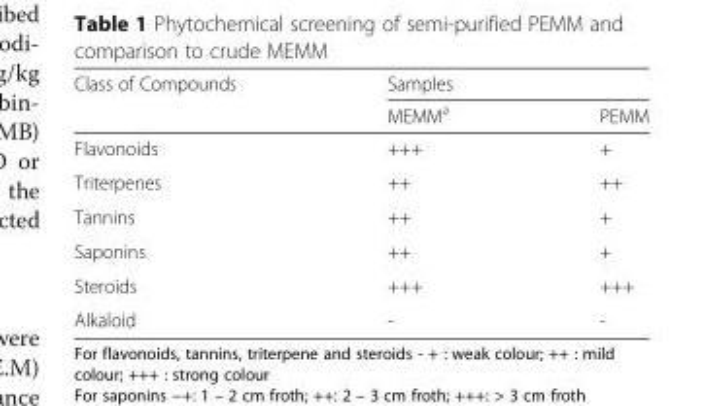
<table><thead><tr><td rowspan="2">Class of Compounds</td><td colspan="2">Samples</td></tr><tr><td>MEMM<sup>a</sup></td><td>PEMM</td></tr></thead><tbody><tr><td>Flavonoids</td><td>+++</td><td>+</td></tr><tr><td>Triterpenes</td><td>++</td><td>++</td></tr><tr><td>Tannins</td><td>++</td><td>+</td></tr><tr><td>Saponins</td><td>++</td><td>+</td></tr><tr><td>Steroids</td><td>+++</td><td>+++</td></tr><tr><td>Alkaloid</td><td>-</td><td>-</td></tr></tbody></table>